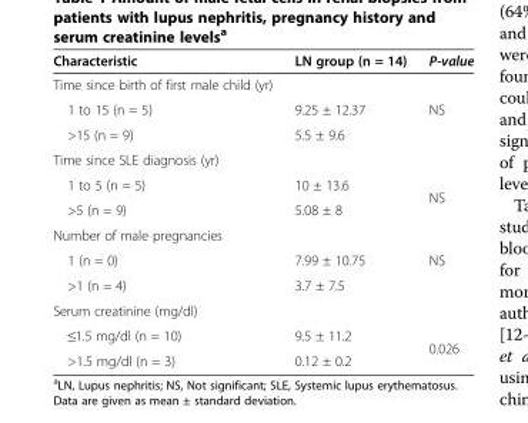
<table><thead><tr><td>Characteristic</td><td>LN group (n = 14)</td><td>P-value</td></tr></thead><tbody><tr><td colspan="3">Time since birth of first male child (yr)</td></tr><tr><td>1 to 15 (n = 5)</td><td>9.25 ± 12.37</td><td>NS</td></tr><tr><td>&gt;15 (n = 9)</td><td>5.5 ± 9.6</td><td></td></tr><tr><td colspan="3">Time since SLE diagnosis (yr)</td></tr><tr><td>1 to 5 (n = 5)</td><td>10 ± 13.6</td><td rowspan="2">NS</td></tr><tr><td>&gt;5 (n = 9)</td><td>5.08 ± 8</td></tr><tr><td colspan="3">Number of male pregnancies</td></tr><tr><td>1 (n = 0)</td><td>7.99 ± 10.75</td><td rowspan="2">NS</td></tr><tr><td>&gt;1 (n = 4)</td><td>3.7 ± 7.5</td></tr><tr><td colspan="3">Serum creatinine (mg/dl)</td></tr><tr><td>≤1.5 mg/dl (n = 10)</td><td>9.5 ± 11.2</td><td rowspan="2">0.026</td></tr><tr><td>&gt;1.5 mg/dl (n = 3)</td><td>0.12 ± 0.2</td></tr></tbody></table>